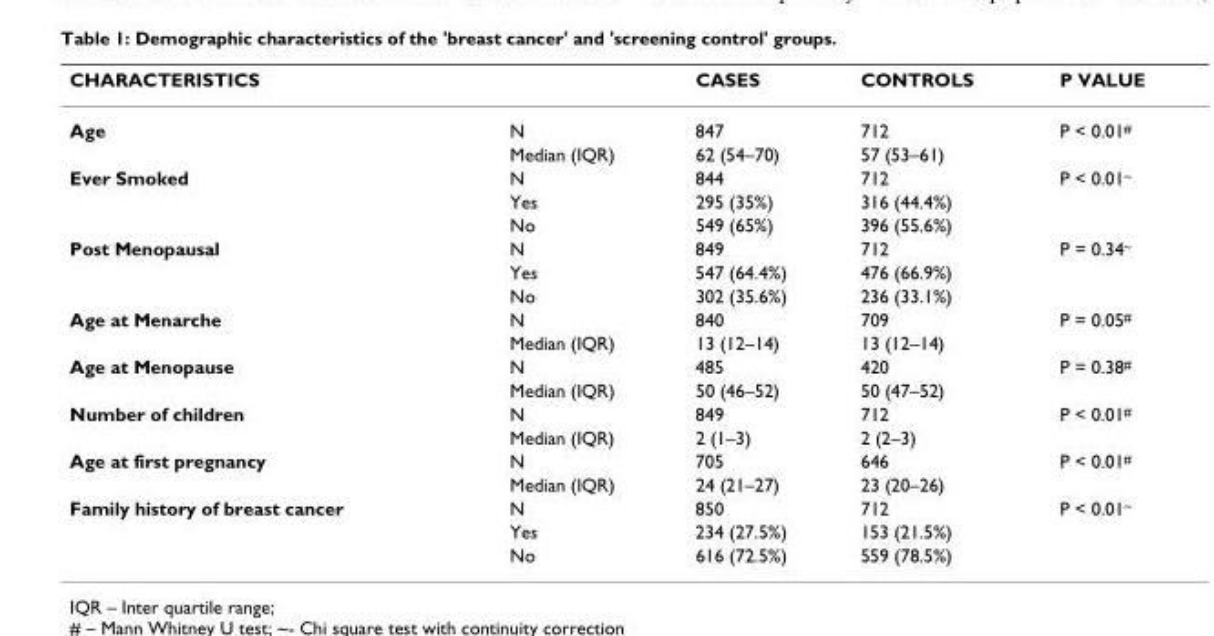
<table><thead><tr><td colspan="2">CHARACTERISTICS</td><td rowspan="2">CASES 847</td><td rowspan="2">CONTROLS 712</td><td rowspan="2">P VALUE P &lt; 0.01<sup>#</sup></td></tr><tr><td>Age</td><td>N</td></tr></thead><tbody><tr><td></td><td>Median (IQR)</td><td>62 (54–70)</td><td>57 (53–61)</td><td></td></tr><tr><td rowspan="3">Ever Smoked</td><td>N</td><td>844</td><td>712</td><td>P &lt; 0.01<sup>~</sup></td></tr><tr><td>Yes</td><td>295 (35%)</td><td>316 (44.4%)</td><td></td></tr><tr><td>No</td><td>549 (65%)</td><td>396 (55.6%)</td><td></td></tr><tr><td rowspan="3">Post Menopausal</td><td>N</td><td>849</td><td>712</td><td>P = 0.34<sup>~</sup></td></tr><tr><td>Yes</td><td>547 (64.4%)</td><td>476 (66.9%)</td><td></td></tr><tr><td>No</td><td>302 (35.6%)</td><td>236 (33.1%)</td><td></td></tr><tr><td rowspan="2">Age at Menarche</td><td>N</td><td>840</td><td>709</td><td>P = 0.05<sup>#</sup></td></tr><tr><td>Median (IQR)</td><td>13 (12–14)</td><td>13 (12–14)</td><td></td></tr><tr><td rowspan="2">Age at Menopause</td><td>N</td><td>485</td><td>420</td><td>P = 0.38<sup>#</sup></td></tr><tr><td>Median (IQR)</td><td>50 (46–52)</td><td>50 (47–52)</td><td></td></tr><tr><td rowspan="2">Number of children</td><td>N</td><td>849</td><td>712</td><td>P &lt; 0.01<sup>#</sup></td></tr><tr><td>Median (IQR)</td><td>2 (1–3)</td><td>2 (2–3)</td><td></td></tr><tr><td rowspan="2">Age at first pregnancy</td><td>N</td><td>705</td><td>646</td><td>P &lt; 0.01<sup>#</sup></td></tr><tr><td>Median (IQR)</td><td>24 (21–27)</td><td>23 (20–26)</td><td></td></tr><tr><td rowspan="3">Family history of breast cancer</td><td>N</td><td>850</td><td>712</td><td>P &lt; 0.01<sup>~</sup></td></tr><tr><td>Yes</td><td>234 (27.5%)</td><td>153 (21.5%)</td><td></td></tr><tr><td>No</td><td>616 (72.5%)</td><td>559 (78.5%)</td><td></td></tr></tbody></table>